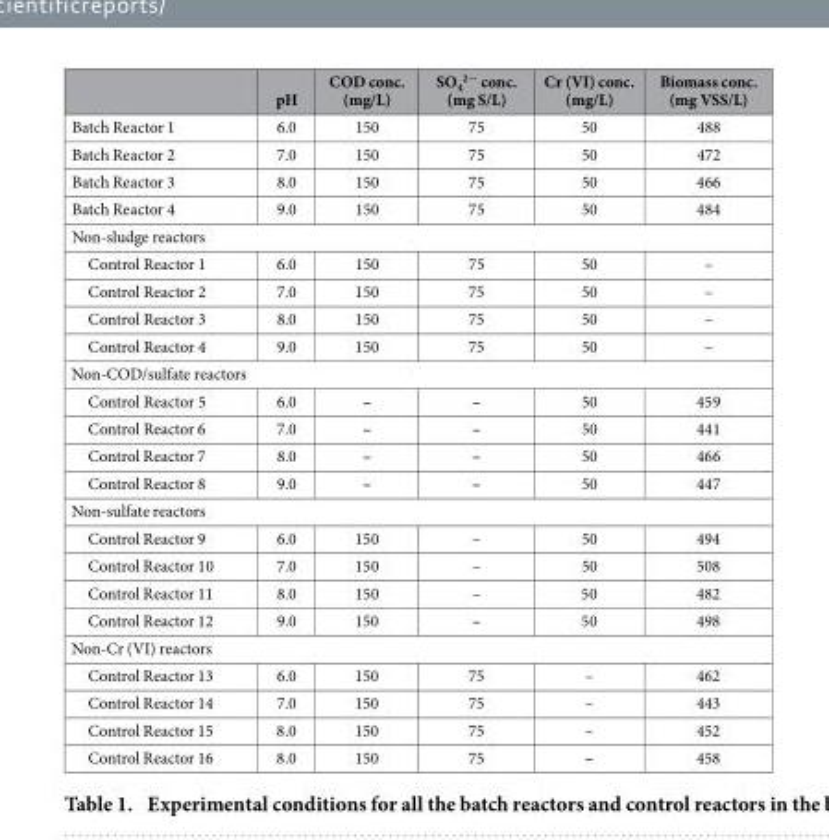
<table><thead><tr><td></td><td>pH</td><td>COD conc. (mg/L)</td><td>SO<sub>4</sub> <sup>2−</sup> conc. (mg S/L)</td><td>Cr (VI) conc. (mg/L)</td><td>Biomass conc. (mg VSS/L)</td></tr></thead><tbody><tr><td>Batch Reactor 1</td><td>6.0</td><td>150</td><td>75</td><td>50</td><td>488</td></tr><tr><td>Batch Reactor 2</td><td>7.0</td><td>150</td><td>75</td><td>50</td><td>472</td></tr><tr><td>Batch Reactor 3</td><td>8.0</td><td>150</td><td>75</td><td>50</td><td>466</td></tr><tr><td>Batch Reactor 4</td><td>9.0</td><td>150</td><td>75</td><td>50</td><td>484</td></tr><tr><td colspan="6">Non-sludge reactors</td></tr><tr><td>Control Reactor 1</td><td>6.0</td><td>150</td><td>75</td><td>50</td><td>–</td></tr><tr><td>Control Reactor 2</td><td>7.0</td><td>150</td><td>75</td><td>50</td><td>–</td></tr><tr><td>Control Reactor 3</td><td>8.0</td><td>150</td><td>75</td><td>50</td><td>–</td></tr><tr><td>Control Reactor 4</td><td>9.0</td><td>150</td><td>75</td><td>50</td><td>–</td></tr><tr><td colspan="6">Non-COD/sulfate reactors</td></tr><tr><td>Control Reactor 5</td><td>6.0</td><td>–</td><td>–</td><td>50</td><td>459</td></tr><tr><td>Control Reactor 6</td><td>7.0</td><td>–</td><td>–</td><td>50</td><td>441</td></tr><tr><td>Control Reactor 7</td><td>8.0</td><td>–</td><td>–</td><td>50</td><td>466</td></tr><tr><td>Control Reactor 8</td><td>9.0</td><td>–</td><td>–</td><td>50</td><td>447</td></tr><tr><td colspan="6">Non-sulfate reactors</td></tr><tr><td>Control Reactor 9</td><td>6.0</td><td>150</td><td>–</td><td>50</td><td>494</td></tr><tr><td>Control Reactor 10</td><td>7.0</td><td>150</td><td>–</td><td>50</td><td>508</td></tr><tr><td>Control Reactor 11</td><td>8.0</td><td>150</td><td>–</td><td>50</td><td>482</td></tr><tr><td>Control Reactor 12</td><td>9.0</td><td>150</td><td>–</td><td>50</td><td>498</td></tr><tr><td colspan="6">Non-Cr (VI) reactors</td></tr><tr><td>Control Reactor 13</td><td>6.0</td><td>150</td><td>75</td><td>–</td><td>462</td></tr><tr><td>Control Reactor 14</td><td>7.0</td><td>150</td><td>75</td><td>–</td><td>443</td></tr><tr><td>Control Reactor 15</td><td>8.0</td><td>150</td><td>75</td><td>–</td><td>452</td></tr><tr><td>Control Reactor 16</td><td>8.0</td><td>150</td><td>75</td><td>–</td><td>458</td></tr></tbody></table>